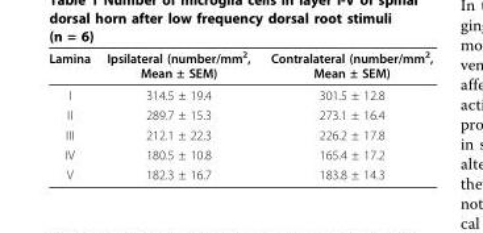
<table><thead><tr><td>Lamina</td><td>Ipsilateral (number/mm<sup>2</sup>, Mean ± SEM)</td><td>Contralateral (number/mm<sup>2</sup>, Mean ± SEM)</td></tr></thead><tbody><tr><td>I</td><td>314.5 ± 19.4</td><td>301.5 ± 12.8</td></tr><tr><td>II</td><td>289.7 ± 15.3</td><td>273.1 ± 16.4</td></tr><tr><td>III</td><td>212.1 ± 22.3</td><td>226.2 ± 17.8</td></tr><tr><td>IV</td><td>180.5 ± 10.8</td><td>165.4 ± 17.2</td></tr><tr><td>V</td><td>182.3 ± 16.7</td><td>183.8 ± 14.3</td></tr></tbody></table>